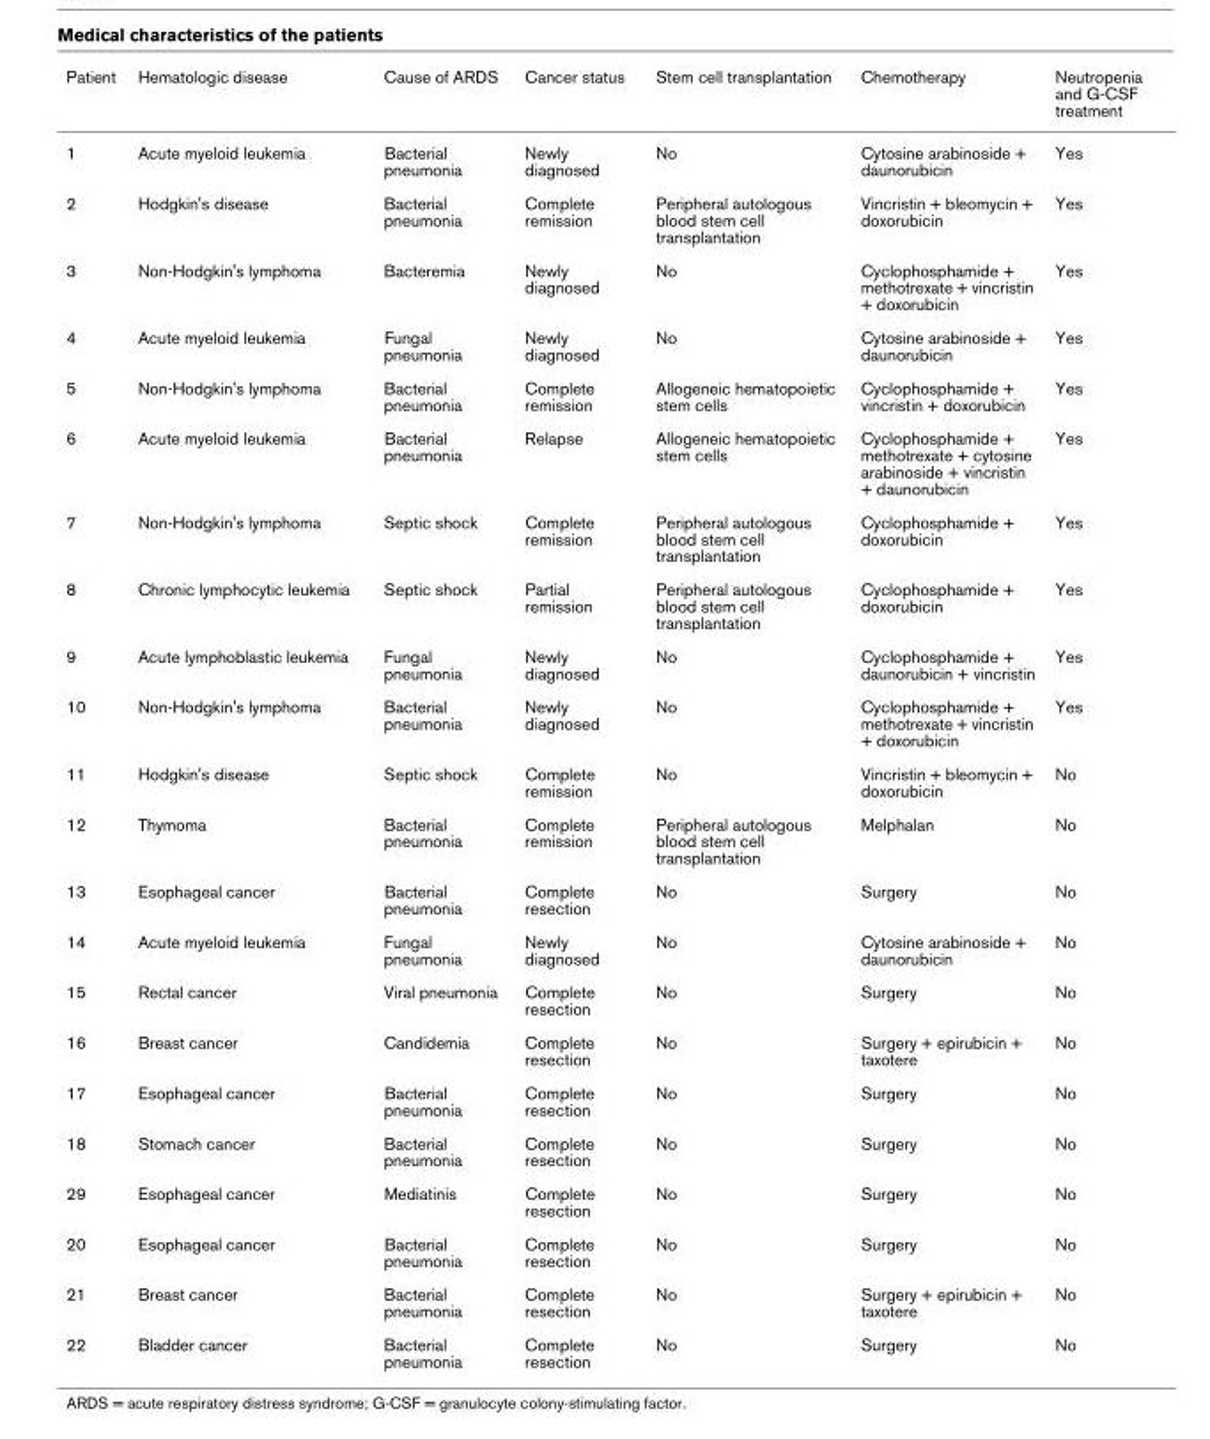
<table><thead><tr><td>Patient</td><td>Hematologic disease</td><td>Cause of ARDS</td><td>Cancer status</td><td>Stem cell transplantation</td><td>Chemotherapy</td><td>Neutropenia and G-CSF treatment</td></tr></thead><tbody><tr><td>1</td><td>Acute myeloid leukemia</td><td>Bacterial pneumonia</td><td>Newly diagnosed</td><td>No</td><td>Cytosine arabinoside + daunorubicin</td><td>Yes</td></tr><tr><td>2</td><td>Hodgkin&#x27;s disease</td><td>Bacterial pneumonia</td><td>Complete remission</td><td>Peripheral autologous blood stem cell transplantation</td><td>Vincristin + bleomycin + doxorubicin</td><td>Yes</td></tr><tr><td>3</td><td>Non-Hodgkin&#x27;s lymphoma</td><td>Bacteremia</td><td>Newly diagnosed</td><td>No</td><td>Cyclophosphamide + methotrexate + vincristin + doxorubicin</td><td>Yes</td></tr><tr><td>4</td><td>Acute myeloid leukemia</td><td>Fungal pneumonia</td><td>Newly diagnosed</td><td>No</td><td>Cytosine arabinoside + daunorubicin</td><td>Yes</td></tr><tr><td>5</td><td>Non-Hodgkin&#x27;s lymphoma</td><td>Bacterial pneumonia</td><td>Complete remission</td><td>Allogeneic hematopoietic stem cells</td><td>Cyclophosphamide + vincristin + doxorubicin</td><td>Yes</td></tr><tr><td>6</td><td>Acute myeloid leukemia</td><td>Bacterial pneumonia</td><td>Relapse</td><td>Allogeneic hematopoietic stem cells</td><td>Cyclophosphamide + methotrexate + cytosine arabinoside + vincristin + daunorubicin</td><td>Yes</td></tr><tr><td>7</td><td>Non-Hodgkin&#x27;s lymphoma</td><td>Septic shock</td><td>Complete remission</td><td>Peripheral autologous blood stem cell transplantation</td><td>Cyclophosphamide + doxorubicin</td><td>Yes</td></tr><tr><td>8</td><td>Chronic lymphocytic leukemia</td><td>Septic shock</td><td>Partial remission</td><td>Peripheral autologous blood stem cell transplantation</td><td>Cyclophosphamide + doxorubicin</td><td>Yes</td></tr><tr><td>9</td><td>Acute lymphoblastic leukemia</td><td>Fungal pneumonia</td><td>Newly diagnosed</td><td>No</td><td>Cyclophosphamide + daunorubicin + vincristin</td><td>Yes</td></tr><tr><td>10</td><td>Non-Hodgkin&#x27;s lymphoma</td><td>Bacterial pneumonia</td><td>Newly diagnosed</td><td>No</td><td>Cyclophosphamide + methotrexate + vincristin + doxorubicin</td><td>Yes</td></tr><tr><td>11</td><td>Hodgkin&#x27;s disease</td><td>Septic shock</td><td>Complete remission</td><td>No</td><td>Vincristin + bleomycin + doxorubicin</td><td>No</td></tr><tr><td>12</td><td>Thymoma</td><td>Bacterial pneumonia</td><td>Complete remission</td><td>Peripheral autologous blood stem cell transplantation</td><td>Melphalan</td><td>No</td></tr><tr><td>13</td><td>Esophageal cancer</td><td>Bacterial pneumonia</td><td>Complete resection</td><td>No</td><td>Surgery</td><td>No</td></tr><tr><td>14</td><td>Acute myeloid leukemia</td><td>Fungal pneumonia</td><td>Newly diagnosed</td><td>No</td><td>Cytosine arabinoside + daunorubicin</td><td>No</td></tr><tr><td>15</td><td>Rectal cancer</td><td>Viral pneumonia</td><td>Complete resection</td><td>No</td><td>Surgery</td><td>No</td></tr><tr><td>16</td><td>Breast cancer</td><td>Candidemia</td><td>Complete resection</td><td>No</td><td>Surgery + epirubicin + taxotere</td><td>No</td></tr><tr><td>17</td><td>Esophageal cancer</td><td>Bacterial pneumonia</td><td>Complete resection</td><td>No</td><td>Surgery</td><td>No</td></tr><tr><td>18</td><td>Stomach cancer</td><td>Bacterial pneumonia</td><td>Complete resection</td><td>No</td><td>Surgery</td><td>No</td></tr><tr><td>29</td><td>Esophageal cancer</td><td>Mediatinis</td><td>Complete resection</td><td>No</td><td>Surgery</td><td>No</td></tr><tr><td>20</td><td>Esophageal cancer</td><td>Bacterial pneumonia</td><td>Complete resection</td><td>No</td><td>Surgery</td><td>No</td></tr><tr><td>21</td><td>Breast cancer</td><td>Bacterial pneumonia</td><td>Complete resection</td><td>No</td><td>Surgery + epirubicin + taxotere</td><td>No</td></tr><tr><td>22</td><td>Bladder cancer</td><td>Bacterial pneumonia</td><td>Complete resection</td><td>No</td><td>Surgery</td><td>No</td></tr></tbody></table>